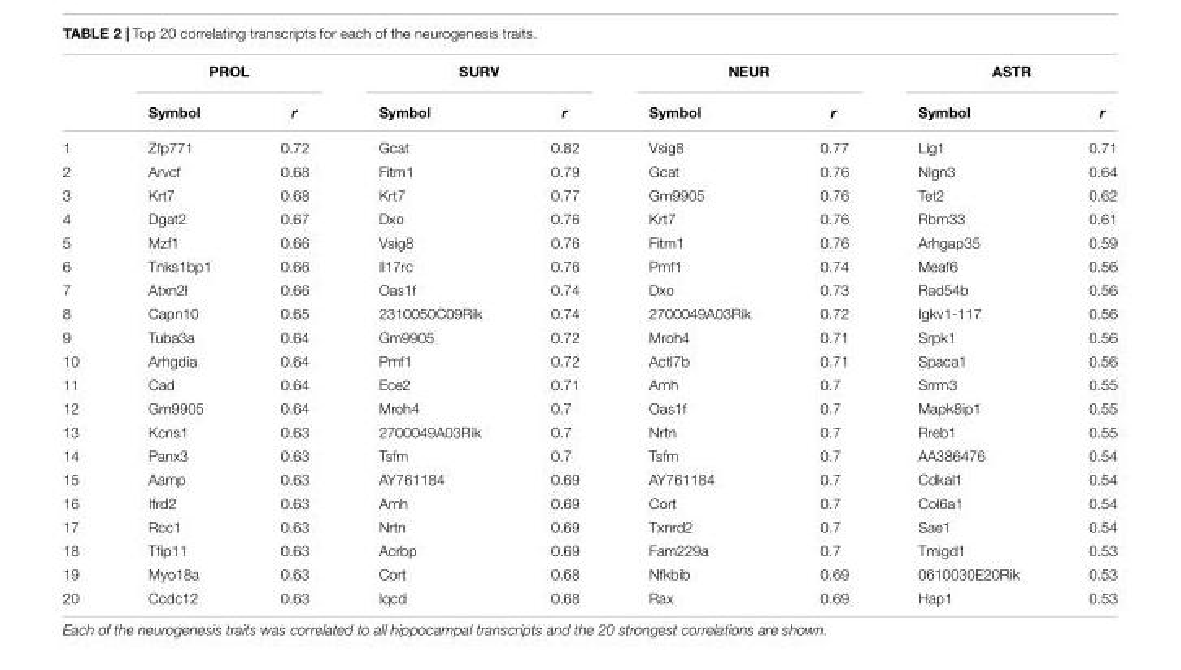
<table><thead><tr><td rowspan="2"></td><td colspan="2">PROL</td><td colspan="2">SURV</td><td colspan="2">NEUR</td><td colspan="2">ASTR</td></tr><tr><td>Symbol</td><td>r</td><td>Symbol</td><td>r</td><td>Symbol</td><td>r</td><td>Symbol</td><td>r</td></tr></thead><tbody><tr><td>1</td><td>Zfp771</td><td>0.72</td><td>Gcat</td><td>0.82</td><td>Vsig8</td><td>0.77</td><td>Lig1</td><td>0.71</td></tr><tr><td>2</td><td>Arvcf</td><td>0.68</td><td>Fitm1</td><td>0.79</td><td>Gcat</td><td>0.76</td><td>Nlgn3</td><td>0.64</td></tr><tr><td>3</td><td>Krt7</td><td>0.68</td><td>Krt7</td><td>0.77</td><td>Gm9905</td><td>0.76</td><td>Tet2</td><td>0.62</td></tr><tr><td>4</td><td>Dgat2</td><td>0.67</td><td>Dxo</td><td>0.76</td><td>Krt7</td><td>0.76</td><td>Rbm33</td><td>0.61</td></tr><tr><td>5</td><td>Mzf1</td><td>0.66</td><td>Vsig8</td><td>0.76</td><td>Fitm1</td><td>0.76</td><td>Arhgap35</td><td>0.59</td></tr><tr><td>6</td><td>Tnks1bp1</td><td>0.66</td><td>Il17rc</td><td>0.76</td><td>Pmf1</td><td>0.74</td><td>Meaf6</td><td>0.56</td></tr><tr><td>7</td><td>Atxn2l</td><td>0.66</td><td>Oas1f</td><td>0.74</td><td>Dxo</td><td>0.73</td><td>Rad54b</td><td>0.56</td></tr><tr><td>8</td><td>Capn10</td><td>0.65</td><td>2310050C09Rik</td><td>0.74</td><td>2700049A03Rik</td><td>0.72</td><td>Igkv1-117</td><td>0.56</td></tr><tr><td>9</td><td>Tuba3a</td><td>0.64</td><td>Gm9905</td><td>0.72</td><td>Mroh4</td><td>0.71</td><td>Srpk1</td><td>0.56</td></tr><tr><td>10</td><td>Arhgdia</td><td>0.64</td><td>Pmf1</td><td>0.72</td><td>Actl7b</td><td>0.71</td><td>Spaca1</td><td>0.56</td></tr><tr><td>11</td><td>Cad</td><td>0.64</td><td>Ece2</td><td>0.71</td><td>Amh</td><td>0.7</td><td>Srrm3</td><td>0.55</td></tr><tr><td>12</td><td>Gm9905</td><td>0.64</td><td>Mroh4</td><td>0.7</td><td>Oas1f</td><td>0.7</td><td>Mapk8ip1</td><td>0.55</td></tr><tr><td>13</td><td>Kcns1</td><td>0.63</td><td>2700049A03Rik</td><td>0.7</td><td>Nrtn</td><td>0.7</td><td>Rreb1</td><td>0.55</td></tr><tr><td>14</td><td>Panx3</td><td>0.63</td><td>Tsfm</td><td>0.7</td><td>Tsfm</td><td>0.7</td><td>AA386476</td><td>0.54</td></tr><tr><td>15</td><td>Aamp</td><td>0.63</td><td>AY761184</td><td>0.69</td><td>AY761184</td><td>0.7</td><td>Cdkal1</td><td>0.54</td></tr><tr><td>16</td><td>Ifrd2</td><td>0.63</td><td>Amh</td><td>0.69</td><td>Cort</td><td>0.7</td><td>Col6a1</td><td>0.54</td></tr><tr><td>17</td><td>Rcc1</td><td>0.63</td><td>Nrtn</td><td>0.69</td><td>Txnrd2</td><td>0.7</td><td>Sae1</td><td>0.54</td></tr><tr><td>18</td><td>Tfip11</td><td>0.63</td><td>Acrbp</td><td>0.69</td><td>Fam229a</td><td>0.7</td><td>Tmigd1</td><td>0.53</td></tr><tr><td>19</td><td>Myo18a</td><td>0.63</td><td>Cort</td><td>0.68</td><td>Nfkbib</td><td>0.69</td><td>0610030E20Rik</td><td>0.53</td></tr><tr><td>20</td><td>Ccdc12</td><td>0.63</td><td>Iqcd</td><td>0.68</td><td>Rax</td><td>0.69</td><td>Hap1</td><td>0.53</td></tr></tbody></table>